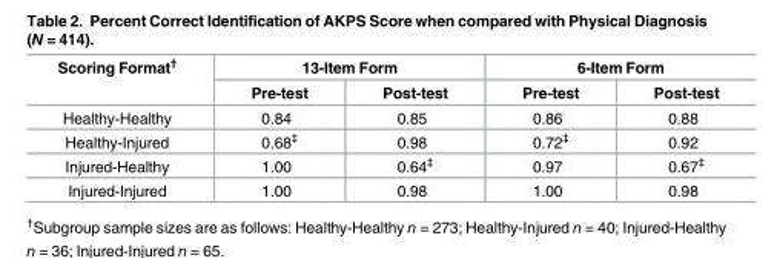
<table><thead><tr><td rowspan="2">Scoring Format<sup>†</sup></td><td colspan="2">13-Item Form</td><td colspan="2">6-Item Form</td></tr><tr><td>Pre-test</td><td>Post-test</td><td>Pre-test</td><td>Post-test</td></tr></thead><tbody><tr><td>Healthy-Healthy</td><td>0.84</td><td>0.85</td><td>0.86</td><td>0.88</td></tr><tr><td>Healthy-Injured</td><td>0.68<sup>‡</sup></td><td>0.98</td><td>0.72<sup>‡</sup></td><td>0.92</td></tr><tr><td>Injured-Healthy</td><td>1.00</td><td>0.64<sup>‡</sup></td><td>0.97</td><td>0.67<sup>‡</sup></td></tr><tr><td>Injured-Injured</td><td>1.00</td><td>0.98</td><td>1.00</td><td>0.98</td></tr></tbody></table>